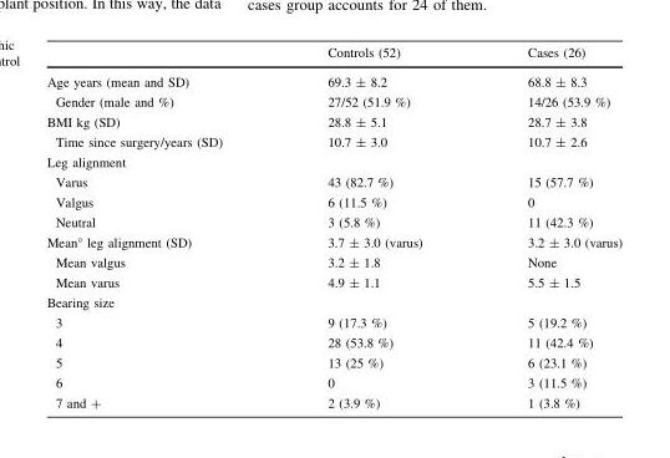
<table><thead><tr><td></td><td>Controls (52)</td><td>Cases (26)</td></tr></thead><tbody><tr><td>Age years (mean and SD)</td><td>69.3 ± 8.2</td><td>68.8 ± 8.3</td></tr><tr><td>Gender (male and %)</td><td>27/52 (51.9 %)</td><td>14/26 (53.9 %)</td></tr><tr><td>BMI kg (SD)</td><td>28.8 ± 5.1</td><td>28.7 ± 3.8</td></tr><tr><td>Time since surgery/years (SD)</td><td>10.7 ± 3.0</td><td>10.7 ± 2.6</td></tr><tr><td colspan="3">Leg alignment</td></tr><tr><td>Varus</td><td>43 (82.7 %)</td><td>15 (57.7 %)</td></tr><tr><td>Valgus</td><td>6 (11.5 %)</td><td>0</td></tr><tr><td>Neutral</td><td>3 (5.8 %)</td><td>11 (42.3 %)</td></tr><tr><td>Mean° leg alignment (SD)</td><td>3.7 ± 3.0 (varus)</td><td>3.2 ± 3.0 (varus)</td></tr><tr><td>Mean valgus</td><td>3.2 ± 1.8</td><td>None</td></tr><tr><td>Mean varus</td><td>4.9 ± 1.1</td><td>5.5 ± 1.5</td></tr><tr><td colspan="3">Bearing size</td></tr><tr><td>3</td><td>9 (17.3 %)</td><td>5 (19.2 %)</td></tr><tr><td>4</td><td>28 (53.8 %)</td><td>11 (42.4 %)</td></tr><tr><td>5</td><td>13 (25 %)</td><td>6 (23.1 %)</td></tr><tr><td>6</td><td>0</td><td>3 (11.5 %)</td></tr><tr><td>7 and +</td><td>2 (3.9 %)</td><td>1 (3.8 %)</td></tr></tbody></table>